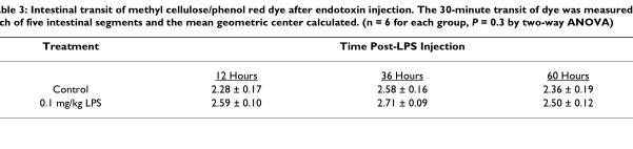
<table><thead><tr><td rowspan="2">Treatment</td><td colspan="3">Time Post-LPS Injection</td></tr><tr><td>12 Hours</td><td>36 Hours</td><td>60 Hours</td></tr></thead><tbody><tr><td>Control</td><td>2.28 ± 0.17</td><td>2.58 ± 0.16</td><td>2.36 ± 0.19</td></tr><tr><td>0.1 mg/kg LPS</td><td>2.59 ± 0.10</td><td>2.71 ± 0.09</td><td>2.50 ± 0.12</td></tr></tbody></table>